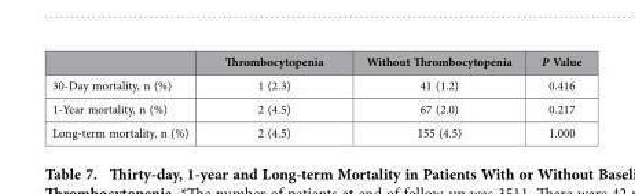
<table><thead><tr><td></td><td>Thrombocytopenia</td><td>Without Thrombocytopenia</td><td>P Value</td></tr></thead><tbody><tr><td>30-Day mortality, n (%)</td><td>1 (2.3)</td><td>41 (1.2)</td><td>0.416</td></tr><tr><td>1-Year mortality, n (%)</td><td>2 (4.5)</td><td>67 (2.0)</td><td>0.217</td></tr><tr><td>Long-term mortality, n (%)</td><td>2 (4.5)</td><td>155 (4.5)</td><td>1.000</td></tr></tbody></table>